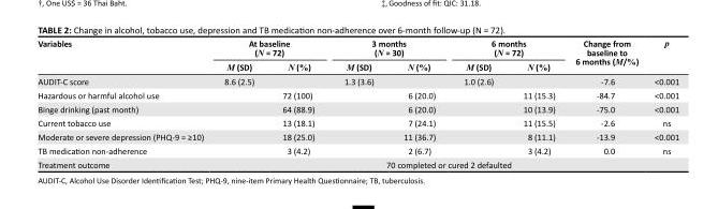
<table><thead><tr><td rowspan="2">Variables</td><td colspan="2">At baseline (N = 72)</td><td colspan="2">3 months (N = 30)</td><td colspan="2">6 months (N = 72)</td><td rowspan="2">Change from baseline to 6 months (M/%)</td><td rowspan="2">p</td></tr><tr><td>M (SD)</td><td>N (%)</td><td>M (SD)</td><td>N (%)</td><td>M (SD)</td><td>N (%)</td></tr></thead><tbody><tr><td>AUDIT-C score</td><td>8.6 (2.5)</td><td></td><td>1.3 (3.6)</td><td></td><td>1.0 (2.6)</td><td></td><td>-7.6</td><td>&lt;0.001</td></tr><tr><td>Hazardous or harmful alcohol use</td><td></td><td>72 (100)</td><td></td><td>6 (20.0)</td><td></td><td>11 (15.3)</td><td>-84.7</td><td>&lt;0.001</td></tr><tr><td>Binge drinking (past month)</td><td></td><td>64 (88.9)</td><td></td><td>6 (20.0)</td><td></td><td>10 (13.9)</td><td>-75.0</td><td>&lt;0.001</td></tr><tr><td>Current tobacco use</td><td></td><td>13 (18.1)</td><td></td><td>7 (24.1)</td><td></td><td>11 (15.5)</td><td>-2.6</td><td>ns</td></tr><tr><td>Moderate or severe depression (PHQ-9 = ≥10)</td><td></td><td>18 (25.0)</td><td></td><td>11 (36.7)</td><td></td><td>8 (11.1)</td><td>-13.9</td><td>&lt;0.001</td></tr><tr><td>TB medication non-adherence</td><td></td><td>3 (4.2)</td><td></td><td>2 (6.7)</td><td></td><td>3 (4.2)</td><td>0.0</td><td>ns</td></tr><tr><td>Treatment outcome</td><td colspan="8">70 completed or cured 2 defaulted</td></tr></tbody></table>